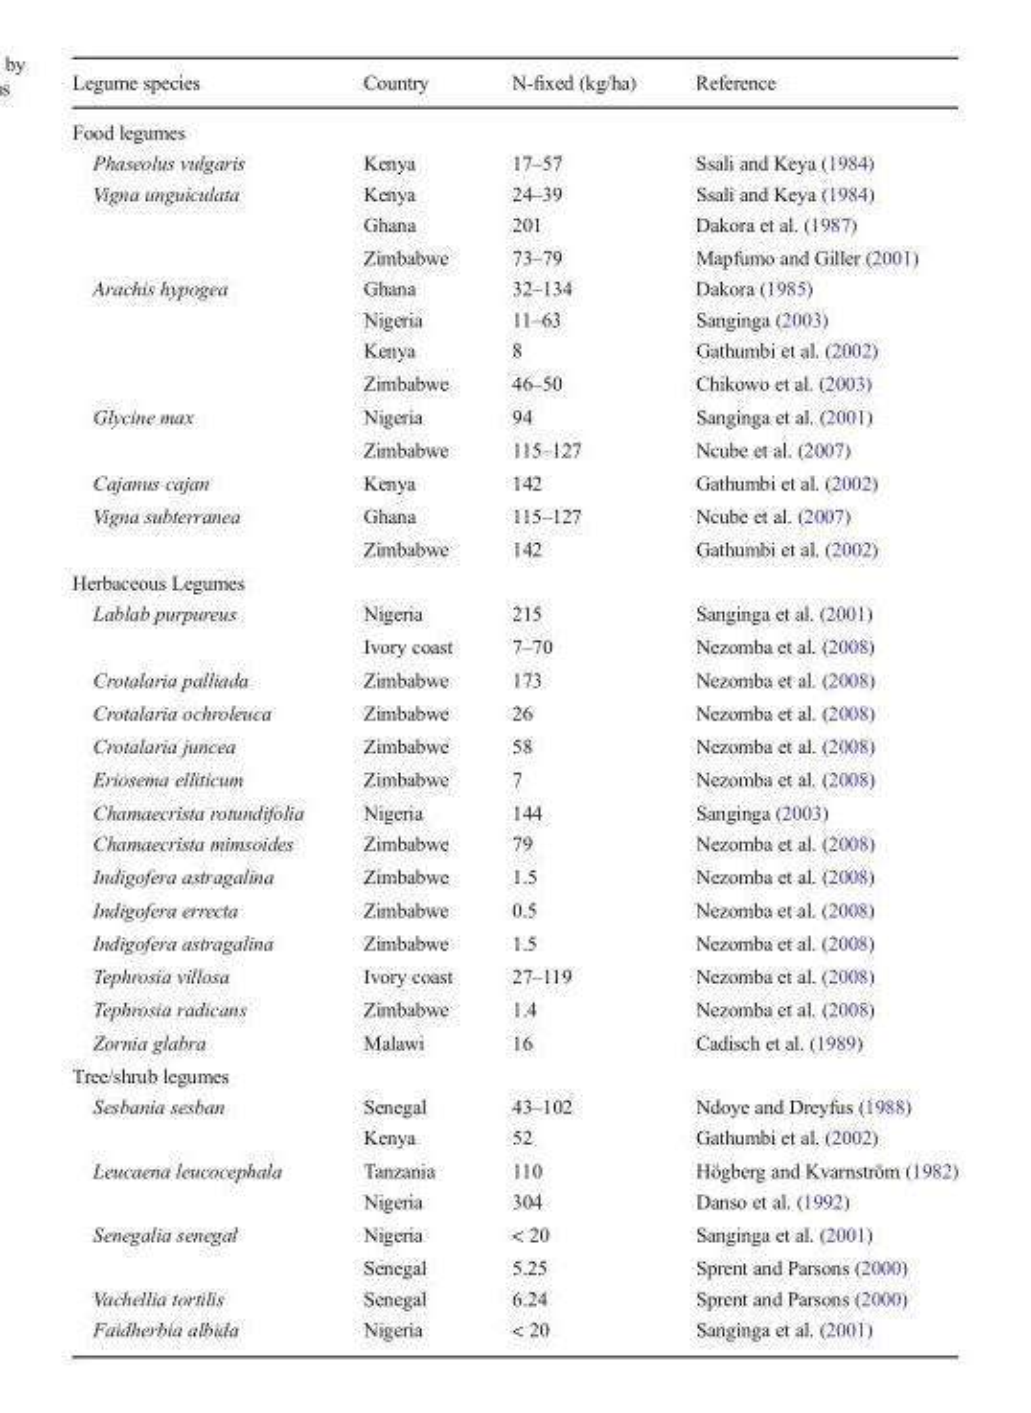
<table><thead><tr><td>Legume species</td><td>Country</td><td>N-fixed (kg/ha)</td><td>Reference</td></tr></thead><tbody><tr><td colspan="4">Food legumes</td></tr><tr><td>Phaseolus vulgaris</td><td>Kenya</td><td>17–57</td><td>Ssali and Keya (1984)</td></tr><tr><td rowspan="3">Vigna unguiculata</td><td>Kenya</td><td>24–39</td><td>Ssali and Keya (1984)</td></tr><tr><td>Ghana</td><td>201</td><td>Dakora et al. (1987)</td></tr><tr><td>Zimbabwe</td><td>73–79</td><td>Mapfumo and Giller (2001)</td></tr><tr><td rowspan="4">Arachis hypogea</td><td>Ghana</td><td>32–134</td><td>Dakora (1985)</td></tr><tr><td>Nigeria</td><td>11–63</td><td>Sanginga (2003)</td></tr><tr><td>Kenya</td><td>8</td><td>Gathumbi et al. (2002)</td></tr><tr><td>Zimbabwe</td><td>46–50</td><td>Chikowo et al. (2003)</td></tr><tr><td rowspan="2">Glycine max</td><td>Nigeria</td><td>94</td><td>Sanginga et al. (2001)</td></tr><tr><td>Zimbabwe</td><td>115–127</td><td>Ncube et al. (2007)</td></tr><tr><td>Cajanus cajan</td><td>Kenya</td><td>142</td><td>Gathumbi et al. (2002)</td></tr><tr><td rowspan="2">Vigna subterranea</td><td>Ghana</td><td>115–127</td><td>Ncube et al. (2007)</td></tr><tr><td>Zimbabwe</td><td>142</td><td>Gathumbi et al. (2002)</td></tr><tr><td colspan="4">Herbaceous Legumes</td></tr><tr><td rowspan="2">Lablab purpureus</td><td>Nigeria</td><td>215</td><td>Sanginga et al. (2001)</td></tr><tr><td>Ivory coast</td><td>7–70</td><td>Nezomba et al. (2008)</td></tr><tr><td>Crotalaria palliada</td><td>Zimbabwe</td><td>173</td><td>Nezomba et al. (2008)</td></tr><tr><td>Crotalaria ochroleuca</td><td>Zimbabwe</td><td>26</td><td>Nezomba et al. (2008)</td></tr><tr><td>Crotalaria juncea</td><td>Zimbabwe</td><td>58</td><td>Nezomba et al. (2008)</td></tr><tr><td>Eriosema elliticum</td><td>Zimbabwe</td><td>7</td><td>Nezomba et al. (2008)</td></tr><tr><td>Chamaecrista rotundifolia</td><td>Nigeria</td><td>144</td><td>Sanginga (2003)</td></tr><tr><td>Chamaecrista mimsoides</td><td>Zimbabwe</td><td>79</td><td>Nezomba et al. (2008)</td></tr><tr><td>Indigofera astragalina</td><td>Zimbabwe</td><td>1.5</td><td>Nezomba et al. (2008)</td></tr><tr><td>Indigofera errecta</td><td>Zimbabwe</td><td>0.5</td><td>Nezomba et al. (2008)</td></tr><tr><td>Indigofera astragalina</td><td>Zimbabwe</td><td>1.5</td><td>Nezomba et al. (2008)</td></tr><tr><td>Tephrosia villosa</td><td>Ivory coast</td><td>27–119</td><td>Nezomba et al. (2008)</td></tr><tr><td>Tephrosia radicans</td><td>Zimbabwe</td><td>1.4</td><td>Nezomba et al. (2008)</td></tr><tr><td>Zornia glabra</td><td>Malawi</td><td>16</td><td>Cadisch et al. (1989)</td></tr><tr><td colspan="4">Tree/shrub legumes</td></tr><tr><td rowspan="2">Sesbania sesban</td><td>Senegal</td><td>43–102</td><td>Ndoye and Dreyfus (1988)</td></tr><tr><td>Kenya</td><td>52</td><td>Gathumbi et al. (2002)</td></tr><tr><td rowspan="2">Leucaena leucocephala</td><td>Tanzania</td><td>110</td><td>Högberg and Kvarnström (1982)</td></tr><tr><td>Nigeria</td><td>304</td><td>Danso et al. (1992)</td></tr><tr><td rowspan="2">Senegalia senegal</td><td>Nigeria</td><td>&lt; 20</td><td>Sanginga et al. (2001)</td></tr><tr><td>Senegal</td><td>5.25</td><td>Sprent and Parsons (2000)</td></tr><tr><td>Vachellia tortilis</td><td>Senegal</td><td>6.24</td><td>Sprent and Parsons (2000)</td></tr><tr><td>Faidherbia albida</td><td>Nigeria</td><td>&lt; 20</td><td>Sanginga et al. (2001)</td></tr></tbody></table>